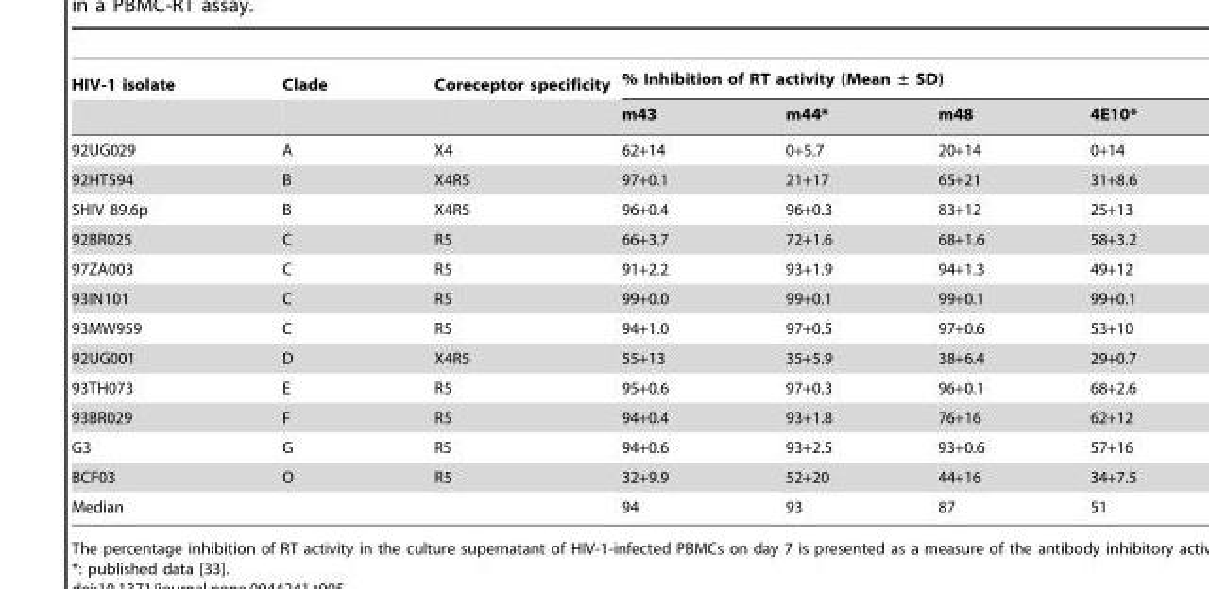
<table><thead><tr><td rowspan="2">HIV-1 isolate</td><td rowspan="2">Clade</td><td rowspan="2">Coreceptor specificity</td><td colspan="4">% Inhibition of RT activity (Mean ± SD)</td></tr><tr><td>m43</td><td>m44*</td><td>m48</td><td>4E10*</td></tr></thead><tbody><tr><td>92UG029</td><td>A</td><td>X4</td><td>62+14</td><td>0+5.7</td><td>20+14</td><td>0+14</td></tr><tr><td>92HT594</td><td>B</td><td>X4R5</td><td>97+0.1</td><td>21+17</td><td>65+21</td><td>31+8.6</td></tr><tr><td>SHIV 89.6p</td><td>B</td><td>X4R5</td><td>96+0.4</td><td>96+0.3</td><td>83+12</td><td>25+13</td></tr><tr><td>92BR025</td><td>C</td><td>R5</td><td>66+3.7</td><td>72+1.6</td><td>68+1.6</td><td>58+3.2</td></tr><tr><td>97ZA003</td><td>C</td><td>R5</td><td>91+2.2</td><td>93+1.9</td><td>94+1.3</td><td>49+12</td></tr><tr><td>93IN101</td><td>C</td><td>R5</td><td>99+0.0</td><td>99+0.1</td><td>99+0.1</td><td>99+0.1</td></tr><tr><td>93MW959</td><td>C</td><td>R5</td><td>94+1.0</td><td>97+0.5</td><td>97+0.6</td><td>53+10</td></tr><tr><td>92UG001</td><td>D</td><td>X4R5</td><td>55+13</td><td>35+5.9</td><td>38+6.4</td><td>29+0.7</td></tr><tr><td>93TH073</td><td>E</td><td>R5</td><td>95+0.6</td><td>97+0.3</td><td>96+0.1</td><td>68+2.6</td></tr><tr><td>93BR029</td><td>F</td><td>R5</td><td>94+0.4</td><td>93+1.8</td><td>76+16</td><td>62+12</td></tr><tr><td>G3</td><td>G</td><td>R5</td><td>94+0.6</td><td>93+2.5</td><td>93+0.6</td><td>57+16</td></tr><tr><td>BCF03</td><td>O</td><td>R5</td><td>32+9.9</td><td>52+20</td><td>44+16</td><td>34+7.5</td></tr><tr><td>Median</td><td></td><td></td><td>94</td><td>93</td><td>87</td><td>51</td></tr></tbody></table>